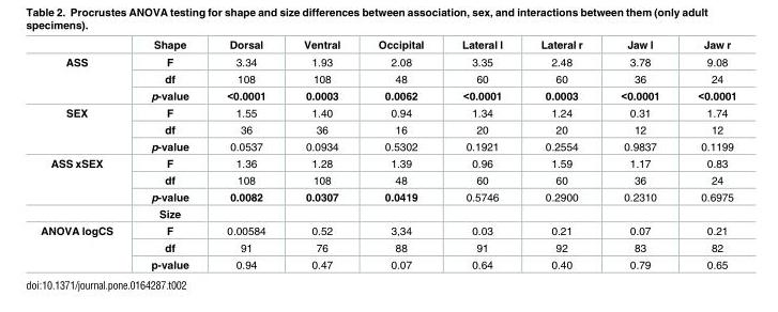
<table><thead><tr><td></td><td>Shape</td><td>Dorsal</td><td>Ventral</td><td>Occipital</td><td>Lateral l</td><td>Lateral r</td><td>Jaw l</td><td>Jaw r</td></tr></thead><tbody><tr><td rowspan="3">ASS</td><td>F</td><td>3.34</td><td>1.93</td><td>2.08</td><td>3.35</td><td>2.48</td><td>3.78</td><td>9.08</td></tr><tr><td>df</td><td>108</td><td>108</td><td>48</td><td>60</td><td>60</td><td>36</td><td>24</td></tr><tr><td>p-value</td><td>&lt;0.0001</td><td>0.0003</td><td>0.0062</td><td>&lt;0.0001</td><td>0.0003</td><td>&lt;0.0001</td><td>&lt;0.0001</td></tr><tr><td rowspan="3">SEX</td><td>F</td><td>1.55</td><td>1.40</td><td>0.94</td><td>1.34</td><td>1.24</td><td>0.31</td><td>1.74</td></tr><tr><td>df</td><td>36</td><td>36</td><td>16</td><td>20</td><td>20</td><td>12</td><td>12</td></tr><tr><td>p-value</td><td>0.0537</td><td>0.0934</td><td>0.5302</td><td>0.1921</td><td>0.2554</td><td>0.9837</td><td>0.1199</td></tr><tr><td rowspan="4">ASS xSEX</td><td>F</td><td>1.36</td><td>1.28</td><td>1.39</td><td>0.96</td><td>1.59</td><td>1.17</td><td>0.83</td></tr><tr><td>df</td><td>108</td><td>108</td><td>48</td><td>60</td><td>60</td><td>36</td><td>24</td></tr><tr><td>p-value</td><td>0.0082</td><td>0.0307</td><td>0.0419</td><td>0.5746</td><td>0.2900</td><td>0.2310</td><td>0.6975</td></tr><tr><td>Size</td><td></td><td></td><td></td><td></td><td></td><td></td><td></td></tr><tr><td rowspan="3">ANOVA logCS</td><td>F</td><td>0.00584</td><td>0.52</td><td>3,34</td><td>0.03</td><td>0.21</td><td>0.07</td><td>0.21</td></tr><tr><td>df</td><td>91</td><td>76</td><td>88</td><td>91</td><td>92</td><td>83</td><td>82</td></tr><tr><td>p-value</td><td>0.94</td><td>0.47</td><td>0.07</td><td>0.64</td><td>0.40</td><td>0.79</td><td>0.65</td></tr></tbody></table>